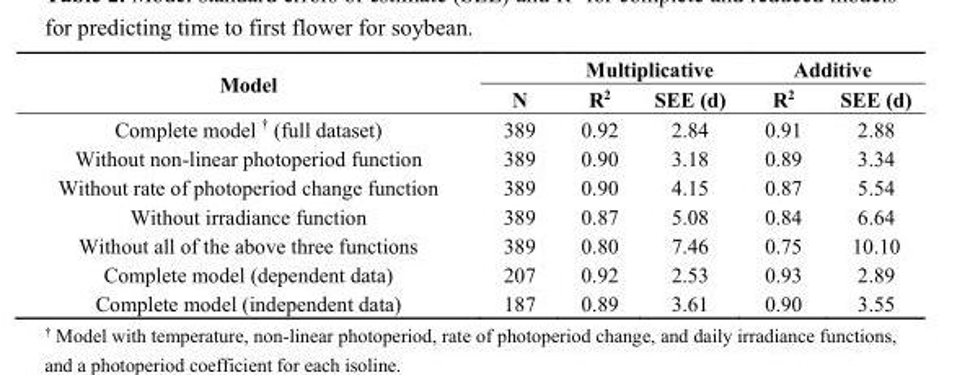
<table><thead><tr><td rowspan="2">Model</td><td rowspan="2">N</td><td colspan="2">Multiplicative</td><td colspan="2">Additive</td></tr><tr><td>R<sup>2</sup></td><td>SEE (d)</td><td>R<sup>2</sup></td><td>SEE (d)</td></tr></thead><tbody><tr><td>Complete model <sup>†</sup> (full dataset)</td><td>389</td><td>0.92</td><td>2.84</td><td>0.91</td><td>2.88</td></tr><tr><td>Without non-linear photoperiod function</td><td>389</td><td>0.90</td><td>3.18</td><td>0.89</td><td>3.34</td></tr><tr><td>Without rate of photoperiod change function</td><td>389</td><td>0.90</td><td>4.15</td><td>0.87</td><td>5.54</td></tr><tr><td>Without irradiance function</td><td>389</td><td>0.87</td><td>5.08</td><td>0.84</td><td>6.64</td></tr><tr><td>Without all of the above three functions</td><td>389</td><td>0.80</td><td>7.46</td><td>0.75</td><td>10.10</td></tr><tr><td>Complete model (dependent data)</td><td>207</td><td>0.92</td><td>2.53</td><td>0.93</td><td>2.89</td></tr><tr><td>Complete model (independent data)</td><td>187</td><td>0.89</td><td>3.61</td><td>0.90</td><td>3.55</td></tr></tbody></table>